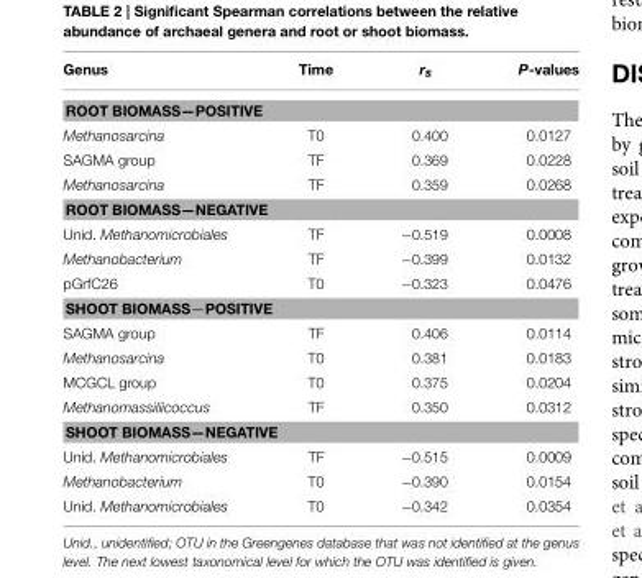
<table><thead><tr><td>Genus</td><td>Time</td><td>rs</td><td>P-values</td></tr></thead><tbody><tr><td colspan="4">ROOT BIOMASS—POSITIVE</td></tr><tr><td>Methanosarcina</td><td>T0</td><td>0.400</td><td>0.0127</td></tr><tr><td>SAGMA group</td><td>TF</td><td>0.369</td><td>0.0228</td></tr><tr><td>Methanosarcina</td><td>TF</td><td>0.359</td><td>0.0268</td></tr><tr><td colspan="4">ROOT BIOMASS—NEGATIVE</td></tr><tr><td>Unid. Methanomicrobiales</td><td>TF</td><td>−0.519</td><td>0.0008</td></tr><tr><td>Methanobacterium</td><td>TF</td><td>−0.399</td><td>0.0132</td></tr><tr><td>pGrfC26</td><td>T0</td><td>−0.323</td><td>0.0476</td></tr><tr><td colspan="4">SHOOT BIOMASS—POSITIVE</td></tr><tr><td>SAGMA group</td><td>TF</td><td>0.406</td><td>0.0114</td></tr><tr><td>Methanosarcina</td><td>T0</td><td>0.381</td><td>0.0183</td></tr><tr><td>MCGCL group</td><td>T0</td><td>0.375</td><td>0.0204</td></tr><tr><td>Methanomassiliicoccus</td><td>TF</td><td>0.350</td><td>0.0312</td></tr><tr><td colspan="4">SHOOT BIOMASS—NEGATIVE</td></tr><tr><td>Unid. Methanomicrobiales</td><td>TF</td><td>−0.515</td><td>0.0009</td></tr><tr><td>Methanobacterium</td><td>T0</td><td>−0.390</td><td>0.0154</td></tr><tr><td>Unid. Methanomicrobiales</td><td>T0</td><td>−0.342</td><td>0.0354</td></tr></tbody></table>